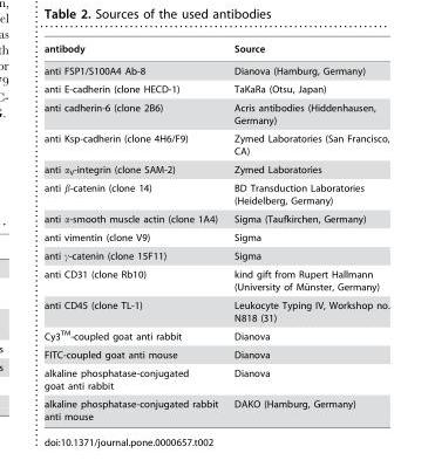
<table><thead><tr><td>antibody</td><td>Source</td></tr></thead><tbody><tr><td>anti FSP1/S100A4 Ab-8</td><td>Dianova (Hamburg, Germany)</td></tr><tr><td>anti E-cadherin (clone HECD-1)</td><td>TaKaRa (Otsu, Japan)</td></tr><tr><td>anti cadherin-6 (clone 2B6)</td><td>Acris antibodies (Hiddenhausen, Germany)</td></tr><tr><td>anti Ksp-cadherin (clone 4H6/F9)</td><td>Zymed Laboratories (San Francisco, CA)</td></tr><tr><td>anti α<sub>V</sub>-integrin (clone SAM-2)</td><td>Zymed Laboratories</td></tr><tr><td>anti β-catenin (clone 14)</td><td>BD Transduction Laboratories (Heidelberg, Germany)</td></tr><tr><td>anti α-smooth muscle actin (clone 1A4)</td><td>Sigma (Taufkirchen, Germany)</td></tr><tr><td>anti vimentin (clone V9)</td><td>Sigma</td></tr><tr><td>anti γ-catenin (clone 15F11)</td><td>Sigma</td></tr><tr><td>anti CD31 (clone Rb10)</td><td>kind gift from Rupert Hallmann (University of Mu¨nster, Germany)</td></tr><tr><td>anti CD45 (clone TL-1)</td><td>Leukocyte Typing IV, Workshop no. N818 (31)</td></tr><tr><td>Cy3TM-coupled goat anti rabbit</td><td>Dianova</td></tr><tr><td>FITC-coupled goat anti mouse</td><td>Dianova</td></tr><tr><td>alkaline phosphatase-conjugated goat anti rabbit</td><td>Dianova</td></tr><tr><td>alkaline phosphatase-conjugated rabbit anti mouse</td><td>DAKO (Hamburg, Germany)</td></tr></tbody></table>